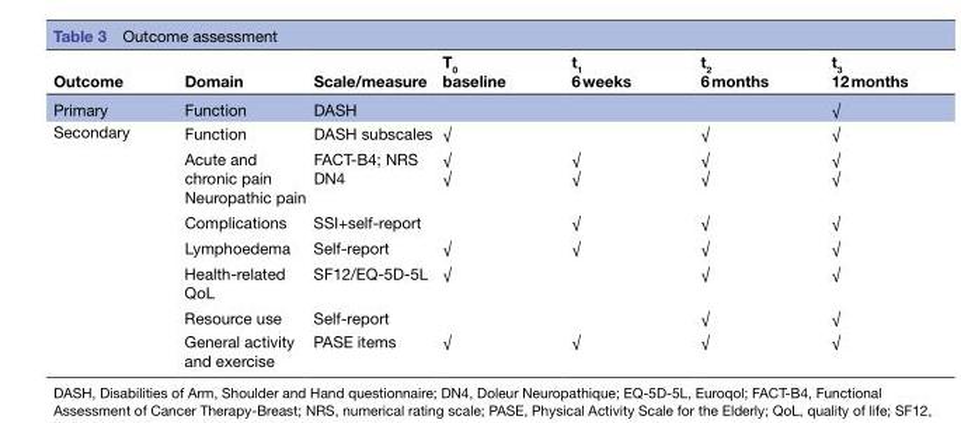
<table><thead><tr><td>Outcome</td><td>Domain</td><td>Scale/measure</td><td>T<sub>0</sub> baseline</td><td>t<sub>1</sub> 6 weeks</td><td>t<sub>2</sub> 6 months</td><td>t<sub>3</sub> 12 months</td></tr></thead><tbody><tr><td>Primary</td><td>Function</td><td>DASH</td><td></td><td></td><td></td><td>√</td></tr><tr><td rowspan="7">Secondary</td><td>Function</td><td>DASH subscales</td><td>√</td><td></td><td>√</td><td>√</td></tr><tr><td>Acute and chronic pain Neuropathic pain</td><td>FACT-B4; NRS DN4</td><td>√ √</td><td>√ √</td><td>√ √</td><td>√ √</td></tr><tr><td>Complications</td><td>SSI+self-report</td><td></td><td>√</td><td>√</td><td>√</td></tr><tr><td>Lymphoedema</td><td>Self-report</td><td>√</td><td>√</td><td>√</td><td>√</td></tr><tr><td>Health-related QoL</td><td>SF12/EQ-5D-5L</td><td>√</td><td></td><td>√</td><td>√</td></tr><tr><td>Resource use</td><td>Self-report</td><td></td><td></td><td>√</td><td>√</td></tr><tr><td>General activity and exercise</td><td>PASE items</td><td>√</td><td>√</td><td>√</td><td>√</td></tr></tbody></table>